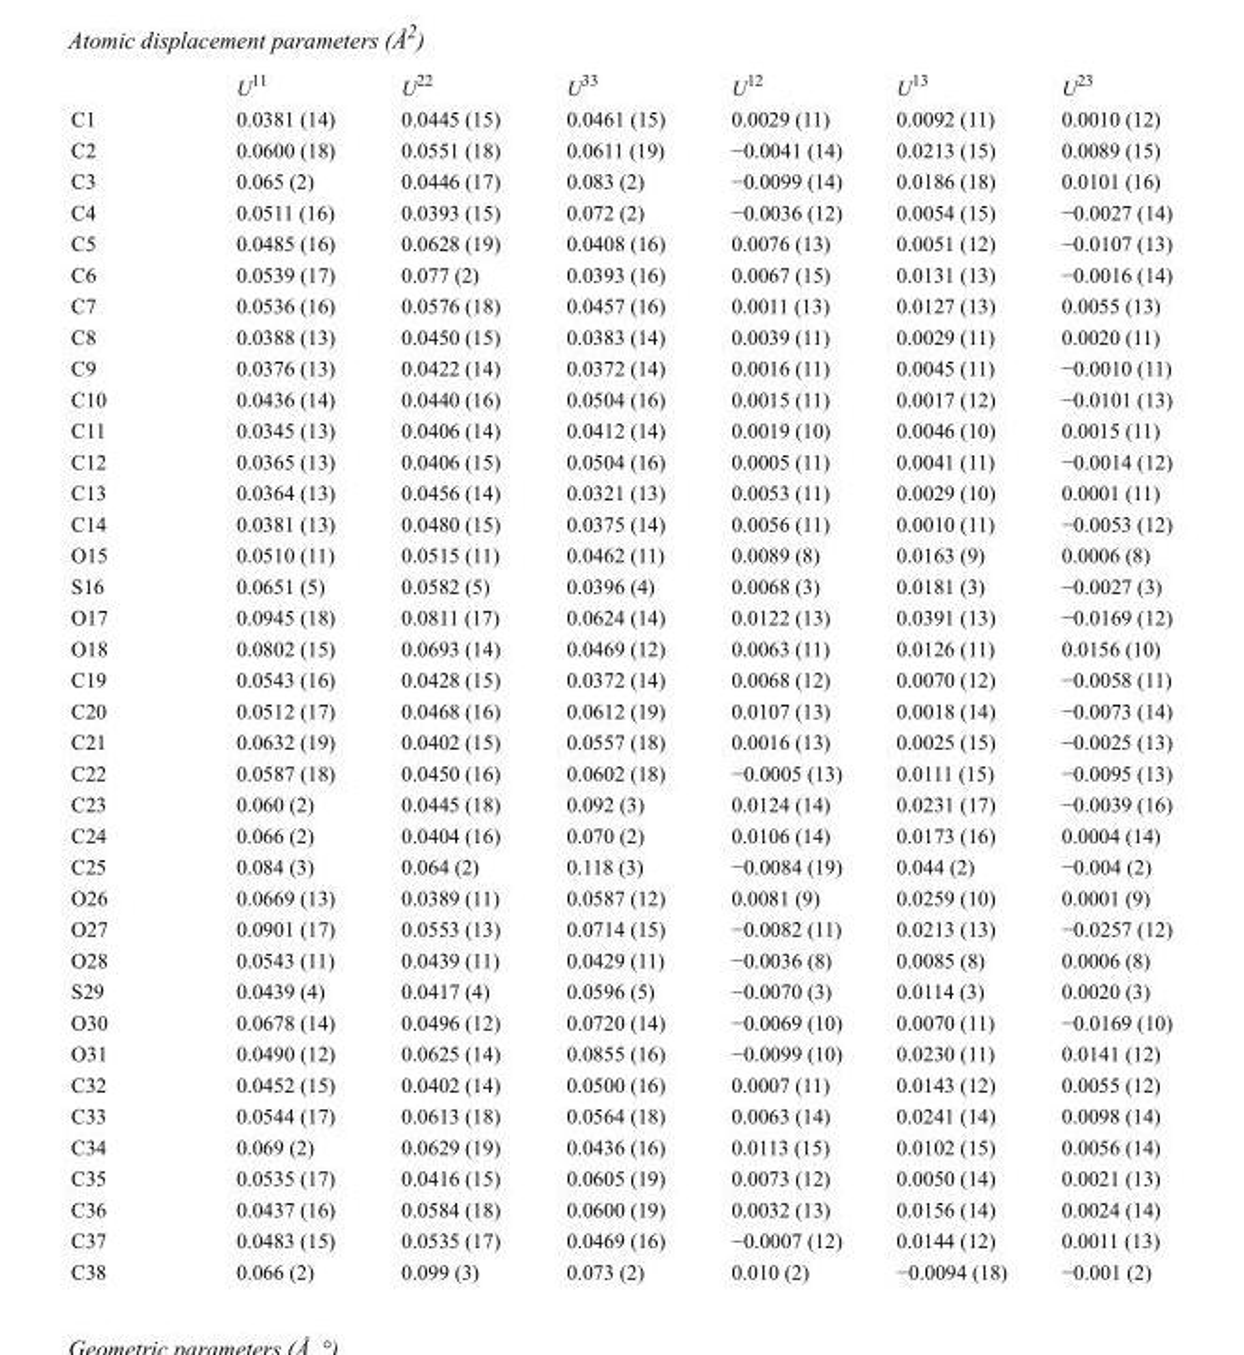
<table><thead><tr><td></td><td>U<sup>11</sup></td><td>U<sup>22</sup></td><td>U<sup>33</sup></td><td>U<sup>12</sup></td><td>U<sup>13</sup></td><td>U<sup>23</sup></td></tr></thead><tbody><tr><td>C1</td><td>0.0381 (14)</td><td>0.0445 (15)</td><td>0.0461 (15)</td><td>0.0029 (11)</td><td>0.0092 (11)</td><td>0.0010 (12)</td></tr><tr><td>C2</td><td>0.0600 (18)</td><td>0.0551 (18)</td><td>0.0611 (19)</td><td>−0.0041 (14)</td><td>0.0213 (15)</td><td>0.0089 (15)</td></tr><tr><td>C3</td><td>0.065 (2)</td><td>0.0446 (17)</td><td>0.083 (2)</td><td>−0.0099 (14)</td><td>0.0186 (18)</td><td>0.0101 (16)</td></tr><tr><td>C4</td><td>0.0511 (16)</td><td>0.0393 (15)</td><td>0.072 (2)</td><td>−0.0036 (12)</td><td>0.0054 (15)</td><td>−0.0027 (14)</td></tr><tr><td>C5</td><td>0.0485 (16)</td><td>0.0628 (19)</td><td>0.0408 (16)</td><td>0.0076 (13)</td><td>0.0051 (12)</td><td>−0.0107 (13)</td></tr><tr><td>C6</td><td>0.0539 (17)</td><td>0.077 (2)</td><td>0.0393 (16)</td><td>0.0067 (15)</td><td>0.0131 (13)</td><td>−0.0016 (14)</td></tr><tr><td>C7</td><td>0.0536 (16)</td><td>0.0576 (18)</td><td>0.0457 (16)</td><td>0.0011 (13)</td><td>0.0127 (13)</td><td>0.0055 (13)</td></tr><tr><td>C8</td><td>0.0388 (13)</td><td>0.0450 (15)</td><td>0.0383 (14)</td><td>0.0039 (11)</td><td>0.0029 (11)</td><td>0.0020 (11)</td></tr><tr><td>C9</td><td>0.0376 (13)</td><td>0.0422 (14)</td><td>0.0372 (14)</td><td>0.0016 (11)</td><td>0.0045 (11)</td><td>−0.0010 (11)</td></tr><tr><td>C10</td><td>0.0436 (14)</td><td>0.0440 (16)</td><td>0.0504 (16)</td><td>0.0015 (11)</td><td>0.0017 (12)</td><td>−0.0101 (13)</td></tr><tr><td>C11</td><td>0.0345 (13)</td><td>0.0406 (14)</td><td>0.0412 (14)</td><td>0.0019 (10)</td><td>0.0046 (10)</td><td>0.0015 (11)</td></tr><tr><td>C12</td><td>0.0365 (13)</td><td>0.0406 (15)</td><td>0.0504 (16)</td><td>0.0005 (11)</td><td>0.0041 (11)</td><td>−0.0014 (12)</td></tr><tr><td>C13</td><td>0.0364 (13)</td><td>0.0456 (14)</td><td>0.0321 (13)</td><td>0.0053 (11)</td><td>0.0029 (10)</td><td>0.0001 (11)</td></tr><tr><td>C14</td><td>0.0381 (13)</td><td>0.0480 (15)</td><td>0.0375 (14)</td><td>0.0056 (11)</td><td>0.0010 (11)</td><td>−0.0053 (12)</td></tr><tr><td>O15</td><td>0.0510 (11)</td><td>0.0515 (11)</td><td>0.0462 (11)</td><td>0.0089 (8)</td><td>0.0163 (9)</td><td>0.0006 (8)</td></tr><tr><td>S16</td><td>0.0651 (5)</td><td>0.0582 (5)</td><td>0.0396 (4)</td><td>0.0068 (3)</td><td>0.0181 (3)</td><td>−0.0027 (3)</td></tr><tr><td>O17</td><td>0.0945 (18)</td><td>0.0811 (17)</td><td>0.0624 (14)</td><td>0.0122 (13)</td><td>0.0391 (13)</td><td>−0.0169 (12)</td></tr><tr><td>O18</td><td>0.0802 (15)</td><td>0.0693 (14)</td><td>0.0469 (12)</td><td>0.0063 (11)</td><td>0.0126 (11)</td><td>0.0156 (10)</td></tr><tr><td>C19</td><td>0.0543 (16)</td><td>0.0428 (15)</td><td>0.0372 (14)</td><td>0.0068 (12)</td><td>0.0070 (12)</td><td>−0.0058 (11)</td></tr><tr><td>C20</td><td>0.0512 (17)</td><td>0.0468 (16)</td><td>0.0612 (19)</td><td>0.0107 (13)</td><td>0.0018 (14)</td><td>−0.0073 (14)</td></tr><tr><td>C21</td><td>0.0632 (19)</td><td>0.0402 (15)</td><td>0.0557 (18)</td><td>0.0016 (13)</td><td>0.0025 (15)</td><td>−0.0025 (13)</td></tr><tr><td>C22</td><td>0.0587 (18)</td><td>0.0450 (16)</td><td>0.0602 (18)</td><td>−0.0005 (13)</td><td>0.0111 (15)</td><td>−0.0095 (13)</td></tr><tr><td>C23</td><td>0.060 (2)</td><td>0.0445 (18)</td><td>0.092 (3)</td><td>0.0124 (14)</td><td>0.0231 (17)</td><td>−0.0039 (16)</td></tr><tr><td>C24</td><td>0.066 (2)</td><td>0.0404 (16)</td><td>0.070 (2)</td><td>0.0106 (14)</td><td>0.0173 (16)</td><td>0.0004 (14)</td></tr><tr><td>C25</td><td>0.084 (3)</td><td>0.064 (2)</td><td>0.118 (3)</td><td>−0.0084 (19)</td><td>0.044 (2)</td><td>−0.004 (2)</td></tr><tr><td>O26</td><td>0.0669 (13)</td><td>0.0389 (11)</td><td>0.0587 (12)</td><td>0.0081 (9)</td><td>0.0259 (10)</td><td>0.0001 (9)</td></tr><tr><td>O27</td><td>0.0901 (17)</td><td>0.0553 (13)</td><td>0.0714 (15)</td><td>−0.0082 (11)</td><td>0.0213 (13)</td><td>−0.0257 (12)</td></tr><tr><td>O28</td><td>0.0543 (11)</td><td>0.0439 (11)</td><td>0.0429 (11)</td><td>−0.0036 (8)</td><td>0.0085 (8)</td><td>0.0006 (8)</td></tr><tr><td>S29</td><td>0.0439 (4)</td><td>0.0417 (4)</td><td>0.0596 (5)</td><td>−0.0070 (3)</td><td>0.0114 (3)</td><td>0.0020 (3)</td></tr><tr><td>O30</td><td>0.0678 (14)</td><td>0.0496 (12)</td><td>0.0720 (14)</td><td>−0.0069 (10)</td><td>0.0070 (11)</td><td>−0.0169 (10)</td></tr><tr><td>O31</td><td>0.0490 (12)</td><td>0.0625 (14)</td><td>0.0855 (16)</td><td>−0.0099 (10)</td><td>0.0230 (11)</td><td>0.0141 (12)</td></tr><tr><td>C32</td><td>0.0452 (15)</td><td>0.0402 (14)</td><td>0.0500 (16)</td><td>0.0007 (11)</td><td>0.0143 (12)</td><td>0.0055 (12)</td></tr><tr><td>C33</td><td>0.0544 (17)</td><td>0.0613 (18)</td><td>0.0564 (18)</td><td>0.0063 (14)</td><td>0.0241 (14)</td><td>0.0098 (14)</td></tr><tr><td>C34</td><td>0.069 (2)</td><td>0.0629 (19)</td><td>0.0436 (16)</td><td>0.0113 (15)</td><td>0.0102 (15)</td><td>0.0056 (14)</td></tr><tr><td>C35</td><td>0.0535 (17)</td><td>0.0416 (15)</td><td>0.0605 (19)</td><td>0.0073 (12)</td><td>0.0050 (14)</td><td>0.0021 (13)</td></tr><tr><td>C36</td><td>0.0437 (16)</td><td>0.0584 (18)</td><td>0.0600 (19)</td><td>0.0032 (13)</td><td>0.0156 (14)</td><td>0.0024 (14)</td></tr><tr><td>C37</td><td>0.0483 (15)</td><td>0.0535 (17)</td><td>0.0469 (16)</td><td>−0.0007 (12)</td><td>0.0144 (12)</td><td>0.0011 (13)</td></tr><tr><td>C38</td><td>0.066 (2)</td><td>0.099 (3)</td><td>0.073 (2)</td><td>0.010 (2)</td><td>−0.0094 (18)</td><td>−0.001 (2)</td></tr></tbody></table>